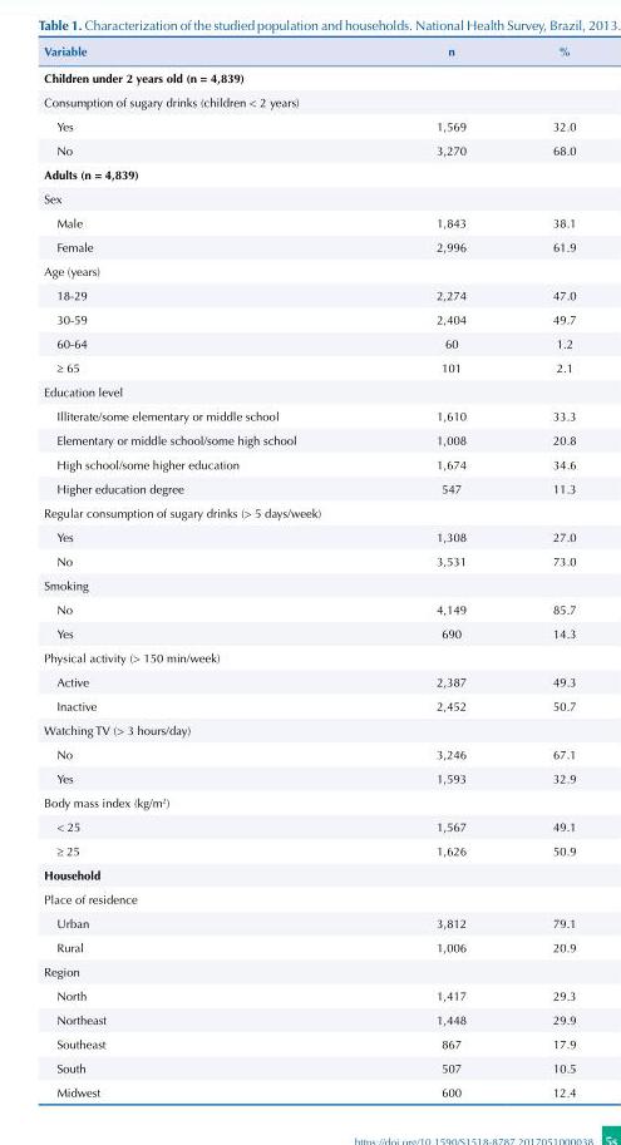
<table><thead><tr><td>Variable</td><td>n</td><td>%</td></tr></thead><tbody><tr><td colspan="3">Children under 2 years old (n = 4,839)</td></tr><tr><td colspan="3">Consumption of sugary drinks (children &lt; 2 years)</td></tr><tr><td>Yes</td><td>1,569</td><td>32.0</td></tr><tr><td>No</td><td>3,270</td><td>68.0</td></tr><tr><td colspan="3">Adults (n = 4,839)</td></tr><tr><td colspan="3">Sex</td></tr><tr><td>Male</td><td>1,843</td><td>38.1</td></tr><tr><td>Female</td><td>2,996</td><td>61.9</td></tr><tr><td colspan="3">Age (years)</td></tr><tr><td>18-29</td><td>2,274</td><td>47.0</td></tr><tr><td>30-59</td><td>2,404</td><td>49.7</td></tr><tr><td>60-64</td><td>60</td><td>1.2</td></tr><tr><td>≥ 65</td><td>101</td><td>2.1</td></tr><tr><td colspan="3">Education level</td></tr><tr><td>Illiterate/some elementary or middle school</td><td>1,610</td><td>33.3</td></tr><tr><td>Elementary or middle school/some high school</td><td>1,008</td><td>20.8</td></tr><tr><td>High school/some higher education</td><td>1,674</td><td>34.6</td></tr><tr><td>Higher education degree</td><td>547</td><td>11.3</td></tr><tr><td colspan="3">Regular consumption of sugary drinks (&gt; 5 days/week)</td></tr><tr><td>Yes</td><td>1,308</td><td>27.0</td></tr><tr><td>No</td><td>3,531</td><td>73.0</td></tr><tr><td colspan="3">Smoking</td></tr><tr><td>No</td><td>4,149</td><td>85.7</td></tr><tr><td>Yes</td><td>690</td><td>14.3</td></tr><tr><td colspan="3">Physical activity (&gt; 150 min/week)</td></tr><tr><td>Active</td><td>2,387</td><td>49.3</td></tr><tr><td>Inactive</td><td>2,452</td><td>50.7</td></tr><tr><td colspan="3">Watching TV (&gt; 3 hours/day)</td></tr><tr><td>No</td><td>3,246</td><td>67.1</td></tr><tr><td>Yes</td><td>1,593</td><td>32.9</td></tr><tr><td colspan="3">Body mass index (kg/m<sup>2</sup>)</td></tr><tr><td>&lt; 25</td><td>1,567</td><td>49.1</td></tr><tr><td>≥ 25</td><td>1,626</td><td>50.9</td></tr><tr><td colspan="3">Household</td></tr><tr><td colspan="3">Place of residence</td></tr><tr><td>Urban</td><td>3,812</td><td>79.1</td></tr><tr><td>Rural</td><td>1,006</td><td>20.9</td></tr><tr><td colspan="3">Region</td></tr><tr><td>North</td><td>1,417</td><td>29.3</td></tr><tr><td>Northeast</td><td>1,448</td><td>29.9</td></tr><tr><td>Southeast</td><td>867</td><td>17.9</td></tr><tr><td>South</td><td>507</td><td>10.5</td></tr><tr><td>Midwest</td><td>600</td><td>12.4</td></tr></tbody></table>